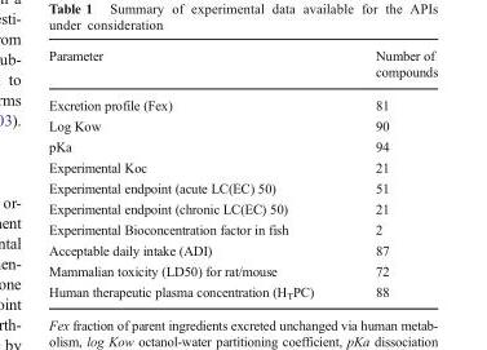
<table><thead><tr><td>Parameter</td><td>Number of compounds</td></tr></thead><tbody><tr><td>Excretion profile (Fex)</td><td>81</td></tr><tr><td>Log Kow</td><td>90</td></tr><tr><td>pKa</td><td>94</td></tr><tr><td>Experimental Koc</td><td>21</td></tr><tr><td>Experimental endpoint (acute LC(EC) 50)</td><td>51</td></tr><tr><td>Experimental endpoint (chronic LC(EC) 50)</td><td>21</td></tr><tr><td>Experimental Bioconcentration factor in fish</td><td>2</td></tr><tr><td>Acceptable daily intake (ADI)</td><td>87</td></tr><tr><td>Mammalian toxicity (LD50) for rat/mouse</td><td>72</td></tr><tr><td>Human therapeutic plasma concentration (H<sub>T</sub>PC)</td><td>88</td></tr></tbody></table>